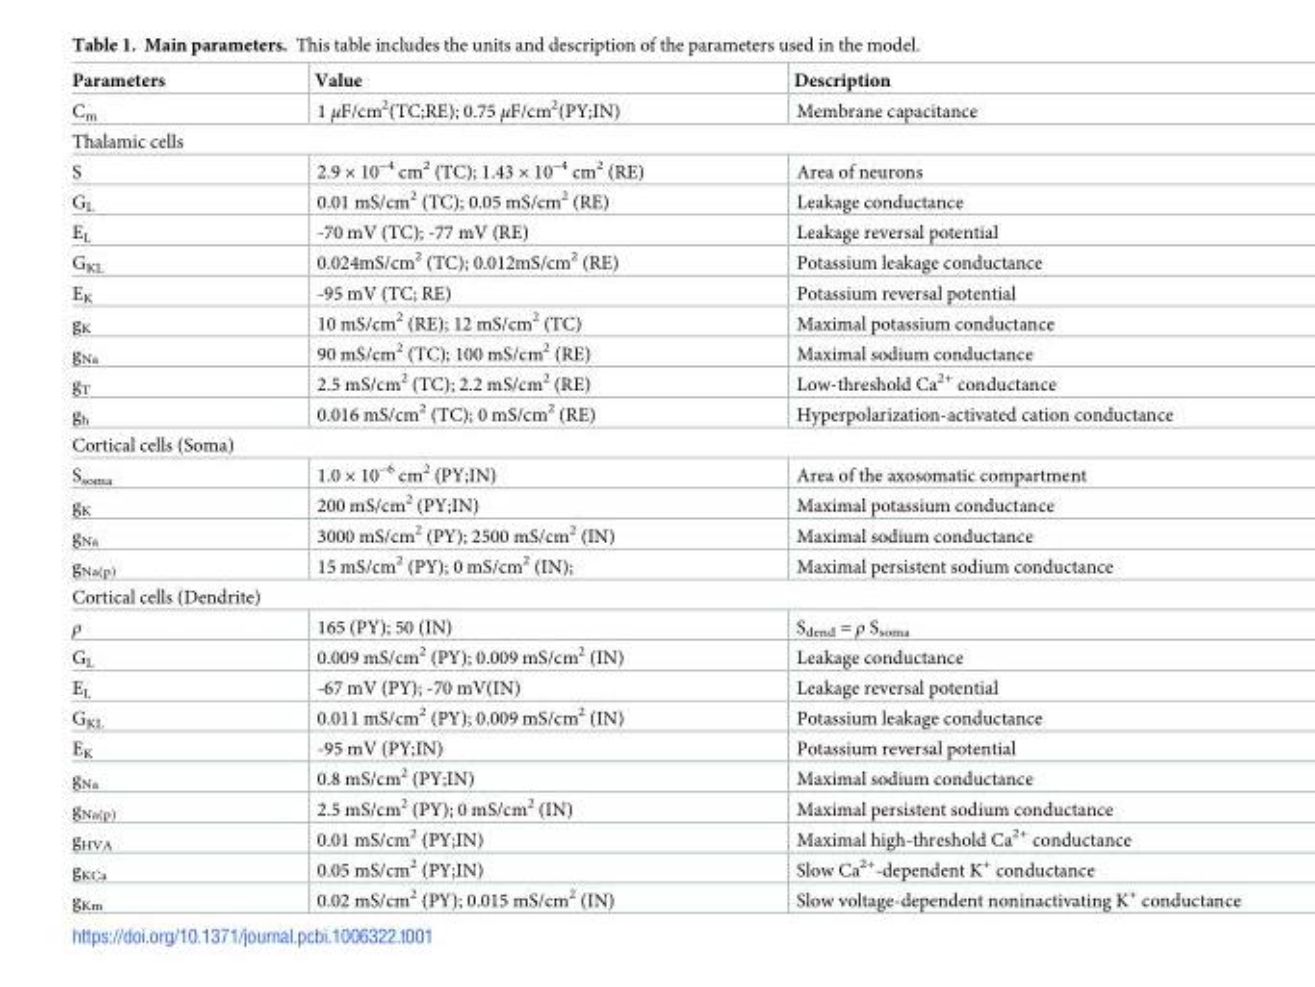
<table><thead><tr><td>Parameters</td><td>Value</td><td>Description</td></tr></thead><tbody><tr><td>C<sub>m</sub></td><td>1 μF/cm<sup>2</sup>(TC;RE); 0.75 μF/cm<sup>2</sup>(PY;IN)</td><td>Membrane capacitance</td></tr><tr><td colspan="3">Thalamic cells</td></tr><tr><td>S</td><td>2.9 × 10<sup>−4</sup> cm<sup>2</sup> (TC); 1.43 × 10<sup>−4</sup> cm<sup>2</sup> (RE)</td><td>Area of neurons</td></tr><tr><td>G<sub>L</sub></td><td>0.01 mS/cm<sup>2</sup> (TC); 0.05 mS/cm<sup>2</sup> (RE)</td><td>Leakage conductance</td></tr><tr><td>E<sub>L</sub></td><td>-70 mV (TC); -77 mV (RE)</td><td>Leakage reversal potential</td></tr><tr><td>G<sub>KL</sub></td><td>0.024mS/cm<sup>2</sup> (TC); 0.012mS/cm<sup>2</sup> (RE)</td><td>Potassium leakage conductance</td></tr><tr><td>E<sub>K</sub></td><td>-95 mV (TC; RE)</td><td>Potassium reversal potential</td></tr><tr><td>g<sub>K</sub></td><td>10 mS/cm<sup>2</sup> (RE); 12 mS/cm<sup>2</sup> (TC)</td><td>Maximal potassium conductance</td></tr><tr><td>g<sub>Na</sub></td><td>90 mS/cm<sup>2</sup> (TC); 100 mS/cm<sup>2</sup> (RE)</td><td>Maximal sodium conductance</td></tr><tr><td>g<sub>T</sub></td><td>2.5 mS/cm<sup>2</sup> (TC); 2.2 mS/cm<sup>2</sup> (RE)</td><td>Low-threshold Ca<sup>2+</sup> conductance</td></tr><tr><td>g<sub>h</sub></td><td>0.016 mS/cm<sup>2</sup> (TC); 0 mS/cm<sup>2</sup> (RE)</td><td>Hyperpolarization-activated cation conductance</td></tr><tr><td colspan="3">Cortical cells (Soma)</td></tr><tr><td>S<sub>soma</sub></td><td>1.0 × 10<sup>−6</sup> cm<sup>2</sup> (PY;IN)</td><td>Area of the axosomatic compartment</td></tr><tr><td>g<sub>K</sub></td><td>200 mS/cm<sup>2</sup> (PY;IN)</td><td>Maximal potassium conductance</td></tr><tr><td>g<sub>Na</sub></td><td>3000 mS/cm<sup>2</sup> (PY); 2500 mS/cm<sup>2</sup> (IN)</td><td>Maximal sodium conductance</td></tr><tr><td>g<sub>Na(p)</sub></td><td>15 mS/cm<sup>2</sup> (PY); 0 mS/cm<sup>2</sup> (IN);</td><td>Maximal persistent sodium conductance</td></tr><tr><td colspan="3">Cortical cells (Dendrite)</td></tr><tr><td>ρ</td><td>165 (PY); 50 (IN)</td><td>S<sub>dend</sub> = ρ S<sub>soma</sub></td></tr><tr><td>G<sub>L</sub></td><td>0.009 mS/cm<sup>2</sup> (PY); 0.009 mS/cm<sup>2</sup> (IN)</td><td>Leakage conductance</td></tr><tr><td>E<sub>L</sub></td><td>-67 mV (PY); -70 mV(IN)</td><td>Leakage reversal potential</td></tr><tr><td>G<sub>KL</sub></td><td>0.011 mS/cm<sup>2</sup> (PY); 0.009 mS/cm<sup>2</sup> (IN)</td><td>Potassium leakage conductance</td></tr><tr><td>E<sub>K</sub></td><td>-95 mV (PY;IN)</td><td>Potassium reversal potential</td></tr><tr><td>g<sub>Na</sub></td><td>0.8 mS/cm<sup>2</sup> (PY;IN)</td><td>Maximal sodium conductance</td></tr><tr><td>g<sub>Na(p)</sub></td><td>2.5 mS/cm<sup>2</sup> (PY); 0 mS/cm<sup>2</sup> (IN)</td><td>Maximal persistent sodium conductance</td></tr><tr><td>g<sub>HVA</sub></td><td>0.01 mS/cm<sup>2</sup> (PY;IN)</td><td>Maximal high-threshold Ca<sup>2+</sup> conductance</td></tr><tr><td>g<sub>KCa</sub></td><td>0.05 mS/cm<sup>2</sup> (PY;IN)</td><td>Slow Ca<sup>2+</sup>-dependent K<sup>+</sup> conductance</td></tr><tr><td>g<sub>Km</sub></td><td>0.02 mS/cm<sup>2</sup> (PY); 0.015 mS/cm<sup>2</sup> (IN)</td><td>Slow voltage-dependent noninactivating K<sup>+</sup> conductance</td></tr></tbody></table>